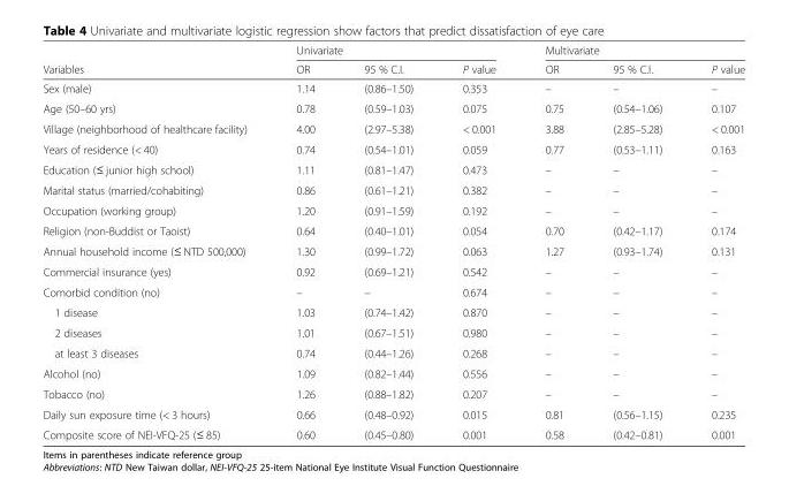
<table><thead><tr><td rowspan="2">Variables</td><td colspan="3">Univariate</td><td colspan="3">Multivariate</td></tr><tr><td>OR</td><td>95 % C.I.</td><td>P value</td><td>OR</td><td>95 % C.I.</td><td>P value</td></tr></thead><tbody><tr><td>Sex (male)</td><td>1.14</td><td>(0.86–1.50)</td><td>0.353</td><td>–</td><td>–</td><td>–</td></tr><tr><td>Age (50–60 yrs)</td><td>0.78</td><td>(0.59–1.03)</td><td>0.075</td><td>0.75</td><td>(0.54–1.06)</td><td>0.107</td></tr><tr><td>Village (neighborhood of healthcare facility)</td><td>4.00</td><td>(2.97–5.38)</td><td>&lt; 0.001</td><td>3.88</td><td>(2.85–5.28)</td><td>&lt; 0.001</td></tr><tr><td>Years of residence (&lt; 40)</td><td>0.74</td><td>(0.54–1.01)</td><td>0.059</td><td>0.77</td><td>(0.53–1.11)</td><td>0.163</td></tr><tr><td>Education (≤ junior high school)</td><td>1.11</td><td>(0.81–1.47)</td><td>0.473</td><td>–</td><td>–</td><td>–</td></tr><tr><td>Marital status (married/cohabiting)</td><td>0.86</td><td>(0.61–1.21)</td><td>0.382</td><td>–</td><td>–</td><td>–</td></tr><tr><td>Occupation (working group)</td><td>1.20</td><td>(0.91–1.59)</td><td>0.192</td><td>–</td><td>–</td><td>–</td></tr><tr><td>Religion (non-Buddist or Taoist)</td><td>0.64</td><td>(0.40–1.01)</td><td>0.054</td><td>0.70</td><td>(0.42–1.17)</td><td>0.174</td></tr><tr><td>Annual household income (≤ NTD 500,000)</td><td>1.30</td><td>(0.99–1.72)</td><td>0.063</td><td>1.27</td><td>(0.93–1.74)</td><td>0.131</td></tr><tr><td>Commercial insurance (yes)</td><td>0.92</td><td>(0.69–1.21)</td><td>0.542</td><td>–</td><td>–</td><td>–</td></tr><tr><td>Comorbid condition (no)</td><td>–</td><td>–</td><td>0.674</td><td>–</td><td>–</td><td>–</td></tr><tr><td>1 disease</td><td>1.03</td><td>(0.74–1.42)</td><td>0.870</td><td>–</td><td>–</td><td>–</td></tr><tr><td>2 diseases</td><td>1.01</td><td>(0.67–1.51)</td><td>0.980</td><td>–</td><td>–</td><td>–</td></tr><tr><td>at least 3 diseases</td><td>0.74</td><td>(0.44–1.26)</td><td>0.268</td><td>–</td><td>–</td><td>–</td></tr><tr><td>Alcohol (no)</td><td>1.09</td><td>(0.82–1.44)</td><td>0.556</td><td>–</td><td>–</td><td>–</td></tr><tr><td>Tobacco (no)</td><td>1.26</td><td>(0.88–1.82)</td><td>0.207</td><td>–</td><td>–</td><td>–</td></tr><tr><td>Daily sun exposure time (&lt; 3 hours)</td><td>0.66</td><td>(0.48–0.92)</td><td>0.015</td><td>0.81</td><td>(0.56–1.15)</td><td>0.235</td></tr><tr><td>Composite score of NEI-VFQ-25 (≤ 85)</td><td>0.60</td><td>(0.45–0.80)</td><td>0.001</td><td>0.58</td><td>(0.42–0.81)</td><td>0.001</td></tr></tbody></table>